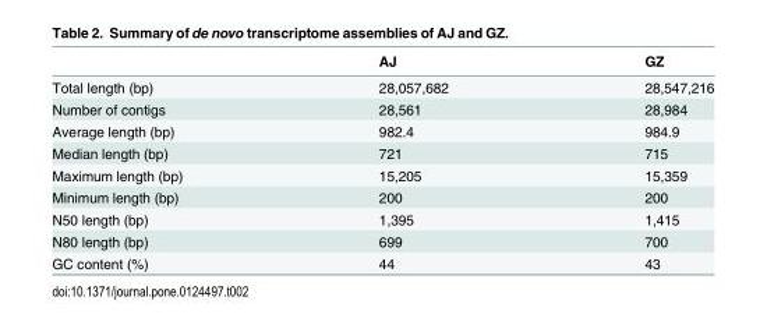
<table><thead><tr><td></td><td>AJ</td><td>GZ</td></tr></thead><tbody><tr><td>Total length (bp)</td><td>28,057,682</td><td>28,547,216</td></tr><tr><td>Number of contigs</td><td>28,561</td><td>28,984</td></tr><tr><td>Average length (bp)</td><td>982.4</td><td>984.9</td></tr><tr><td>Median length (bp)</td><td>721</td><td>715</td></tr><tr><td>Maximum length (bp)</td><td>15,205</td><td>15,359</td></tr><tr><td>Minimum length (bp)</td><td>200</td><td>200</td></tr><tr><td>N50 length (bp)</td><td>1,395</td><td>1,415</td></tr><tr><td>N80 length (bp)</td><td>699</td><td>700</td></tr><tr><td>GC content (%)</td><td>44</td><td>43</td></tr></tbody></table>